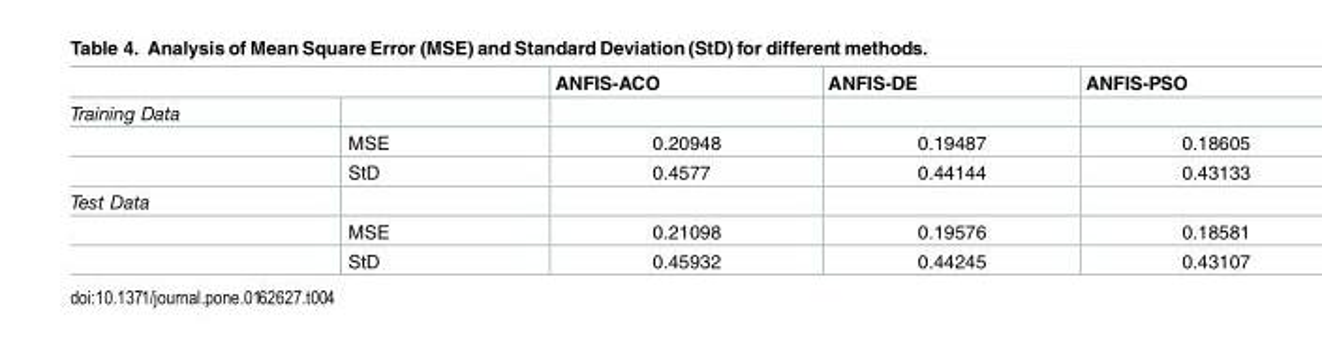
<table><thead><tr><td></td><td></td><td>ANFIS-ACO</td><td>ANFIS-DE</td><td>ANFIS-PSO</td></tr></thead><tbody><tr><td colspan="5">Training Data</td></tr><tr><td></td><td>MSE</td><td>0.20948</td><td>0.19487</td><td>0.18605</td></tr><tr><td></td><td>StD</td><td>0.4577</td><td>0.44144</td><td>0.43133</td></tr><tr><td colspan="5">Test Data</td></tr><tr><td></td><td>MSE</td><td>0.21098</td><td>0.19576</td><td>0.18581</td></tr><tr><td></td><td>StD</td><td>0.45932</td><td>0.44245</td><td>0.43107</td></tr></tbody></table>